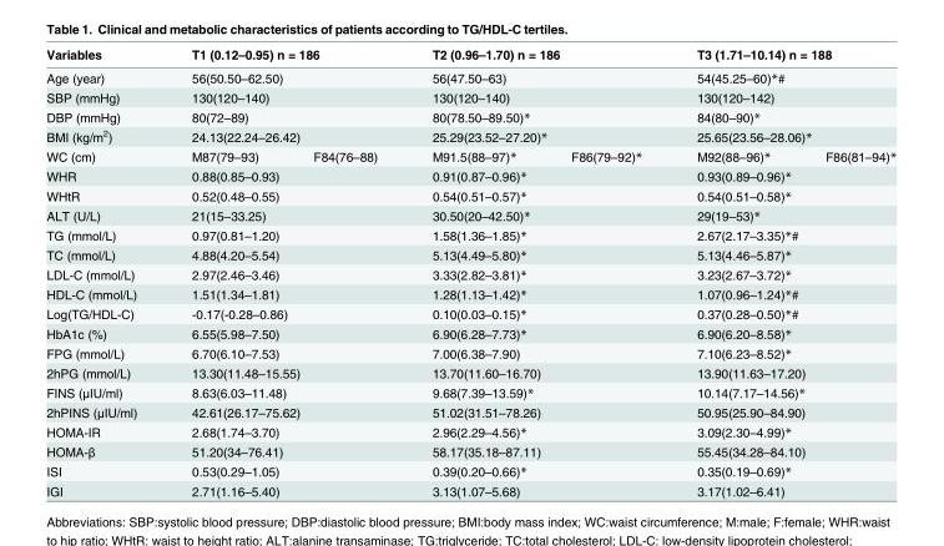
<table><thead><tr><td>Variables</td><td colspan="2">T1 (0.12–0.95) n = 186</td><td colspan="2">T2 (0.96–1.70) n = 186</td><td colspan="2">T3 (1.71–10.14) n = 188</td></tr></thead><tbody><tr><td>Age (year)</td><td colspan="2">56(50.50–62.50)</td><td colspan="2">56(47.50–63)</td><td colspan="2">54(45.25–60)*#</td></tr><tr><td>SBP (mmHg)</td><td colspan="2">130(120–140)</td><td colspan="2">130(120–140)</td><td colspan="2">130(120–142)</td></tr><tr><td>DBP (mmHg)</td><td colspan="2">80(72–89)</td><td colspan="2">80(78.50–89.50)*</td><td colspan="2">84(80–90)*</td></tr><tr><td>BMI (kg/m<sup>2</sup>)</td><td colspan="2">24.13(22.24–26.42)</td><td colspan="2">25.29(23.52–27.20)*</td><td colspan="2">25.65(23.56–28.06)*</td></tr><tr><td>WC (cm)</td><td>M87(79–93)</td><td>F84(76–88)</td><td>M91.5(88–97)*</td><td>F86(79–92)*</td><td>M92(88–96)*</td><td>F86(81–94)*</td></tr><tr><td>WHR</td><td colspan="2">0.88(0.85–0.93)</td><td colspan="2">0.91(0.87–0.96)*</td><td colspan="2">0.93(0.89–0.96)*</td></tr><tr><td>WHtR</td><td colspan="2">0.52(0.48–0.55)</td><td colspan="2">0.54(0.51–0.57)*</td><td colspan="2">0.54(0.51–0.58)*</td></tr><tr><td>ALT (U/L)</td><td colspan="2">21(15–33.25)</td><td colspan="2">30.50(20–42.50)*</td><td colspan="2">29(19–53)*</td></tr><tr><td>TG (mmol/L)</td><td colspan="2">0.97(0.81–1.20)</td><td colspan="2">1.58(1.36–1.85)*</td><td colspan="2">2.67(2.17–3.35)*#</td></tr><tr><td>TC (mmol/L)</td><td colspan="2">4.88(4.20–5.54)</td><td colspan="2">5.13(4.49–5.80)*</td><td colspan="2">5.13(4.46–5.87)*</td></tr><tr><td>LDL-C (mmol/L)</td><td colspan="2">2.97(2.46–3.46)</td><td colspan="2">3.33(2.82–3.81)*</td><td colspan="2">3.23(2.67–3.72)*</td></tr><tr><td>HDL-C (mmol/L)</td><td colspan="2">1.51(1.34–1.81)</td><td colspan="2">1.28(1.13–1.42)*</td><td colspan="2">1.07(0.96–1.24)*#</td></tr><tr><td>Log(TG/HDL-C)</td><td colspan="2">-0.17(-0.28–0.86)</td><td colspan="2">0.10(0.03–0.15)*</td><td colspan="2">0.37(0.28–0.50)*#</td></tr><tr><td>HbA1c (%)</td><td colspan="2">6.55(5.98–7.50)</td><td colspan="2">6.90(6.28–7.73)*</td><td colspan="2">6.90(6.20–8.58)*</td></tr><tr><td>FPG (mmol/L)</td><td colspan="2">6.70(6.10–7.53)</td><td colspan="2">7.00(6.38–7.90)</td><td colspan="2">7.10(6.23–8.52)*</td></tr><tr><td>2hPG (mmol/L)</td><td colspan="2">13.30(11.48–15.55)</td><td colspan="2">13.70(11.60–16.70)</td><td colspan="2">13.90(11.63–17.20)</td></tr><tr><td>FINS (μIU/ml)</td><td colspan="2">8.63(6.03–11.48)</td><td colspan="2">9.68(7.39–13.59)*</td><td colspan="2">10.14(7.17–14.56)*</td></tr><tr><td>2hPINS (μIU/ml)</td><td colspan="2">42.61(26.17–75.62)</td><td colspan="2">51.02(31.51–78.26)</td><td colspan="2">50.95(25.90–84.90)</td></tr><tr><td>HOMA-IR</td><td colspan="2">2.68(1.74–3.70)</td><td colspan="2">2.96(2.29–4.56)*</td><td colspan="2">3.09(2.30–4.99)*</td></tr><tr><td>HOMA-β</td><td colspan="2">51.20(34–76.41)</td><td colspan="2">58.17(35.18–87.11)</td><td colspan="2">55.45(34.28–84.10)</td></tr><tr><td>ISI</td><td colspan="2">0.53(0.29–1.05)</td><td colspan="2">0.39(0.20–0.66)*</td><td colspan="2">0.35(0.19–0.69)*</td></tr><tr><td>IGI</td><td colspan="2">2.71(1.16–5.40)</td><td colspan="2">3.13(1.07–5.68)</td><td colspan="2">3.17(1.02–6.41)</td></tr></tbody></table>